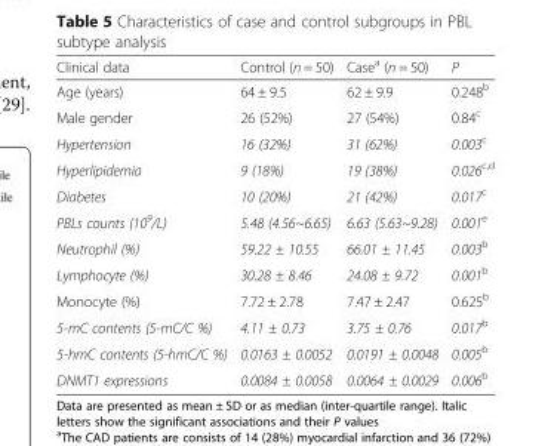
<table><thead><tr><td>Clinical data</td><td>Control (n = 50)</td><td>Case<sup>a</sup> (n = 50)</td><td>P</td></tr></thead><tbody><tr><td>Age (years)</td><td>64 ± 9.5</td><td>62 ± 9.9</td><td>0.248<sup>b</sup></td></tr><tr><td>Male gender</td><td>26 (52%)</td><td>27 (54%)</td><td>0.84<sup>c</sup></td></tr><tr><td>Hypertension</td><td>16 (32%)</td><td>31 (62%)</td><td>0.003<sup>c</sup></td></tr><tr><td>Hyperlipidemia</td><td>9 (18%)</td><td>19 (38%)</td><td>0.026<sup>c,d</sup></td></tr><tr><td>Diabetes</td><td>10 (20%)</td><td>21 (42%)</td><td>0.017<sup>c</sup></td></tr><tr><td>PBLs counts (10<sup>9</sup>/L)</td><td>5.48 (4.56~6.65)</td><td>6.63 (5.63~9.28)</td><td>0.001<sup>e</sup></td></tr><tr><td>Neutrophil (%)</td><td>59.22 ± 10.55</td><td>66.01 ± 11.45</td><td>0.003<sup>b</sup></td></tr><tr><td>Lymphocyte (%)</td><td>30.28 ± 8.46</td><td>24.08 ± 9.72</td><td>0.001<sup>b</sup></td></tr><tr><td>Monocyte (%)</td><td>7.72 ± 2.78</td><td>7.47 ± 2.47</td><td>0.625<sup>b</sup></td></tr><tr><td>5-mC contents (5-mC/C %)</td><td>4.11 ± 0.73</td><td>3.75 ± 0.76</td><td>0.017<sup>b</sup></td></tr><tr><td>5-hmC contents (5-hmC/C %)</td><td>0.0163 ± 0.0052</td><td>0.0191 ± 0.0048</td><td>0.005<sup>b</sup></td></tr><tr><td>DNMT1 expressions</td><td>0.0084 ± 0.0058</td><td>0.0064 ± 0.0029</td><td>0.006<sup>b</sup></td></tr></tbody></table>